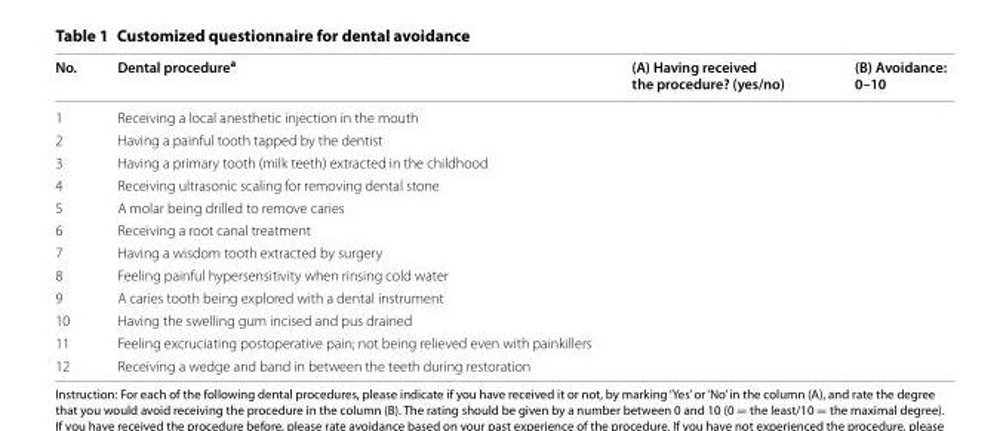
<table><thead><tr><td>No.</td><td>Dental procedure<sup>a</sup></td><td>(A) Having received the procedure? (yes/no)</td><td>(B) Avoidance: 0–10</td></tr></thead><tbody><tr><td>1</td><td>Receiving a local anesthetic injection in the mouth</td><td></td><td></td></tr><tr><td>2</td><td>Having a painful tooth tapped by the dentist</td><td></td><td></td></tr><tr><td>3</td><td>Having a primary tooth (milk teeth) extracted in the childhood</td><td></td><td></td></tr><tr><td>4</td><td>Receiving ultrasonic scaling for removing dental stone</td><td></td><td></td></tr><tr><td>5</td><td>A molar being drilled to remove caries</td><td></td><td></td></tr><tr><td>6</td><td>Receiving a root canal treatment</td><td></td><td></td></tr><tr><td>7</td><td>Having a wisdom tooth extracted by surgery</td><td></td><td></td></tr><tr><td>8</td><td>Feeling painful hypersensitivity when rinsing cold water</td><td></td><td></td></tr><tr><td>9</td><td>A caries tooth being explored with a dental instrument</td><td></td><td></td></tr><tr><td>10</td><td>Having the swelling gum incised and pus drained</td><td></td><td></td></tr><tr><td>11</td><td>Feeling excruciating postoperative pain; not being relieved even with painkillers</td><td></td><td></td></tr><tr><td>12</td><td>Receiving a wedge and band in between the teeth during restoration</td><td></td><td></td></tr></tbody></table>